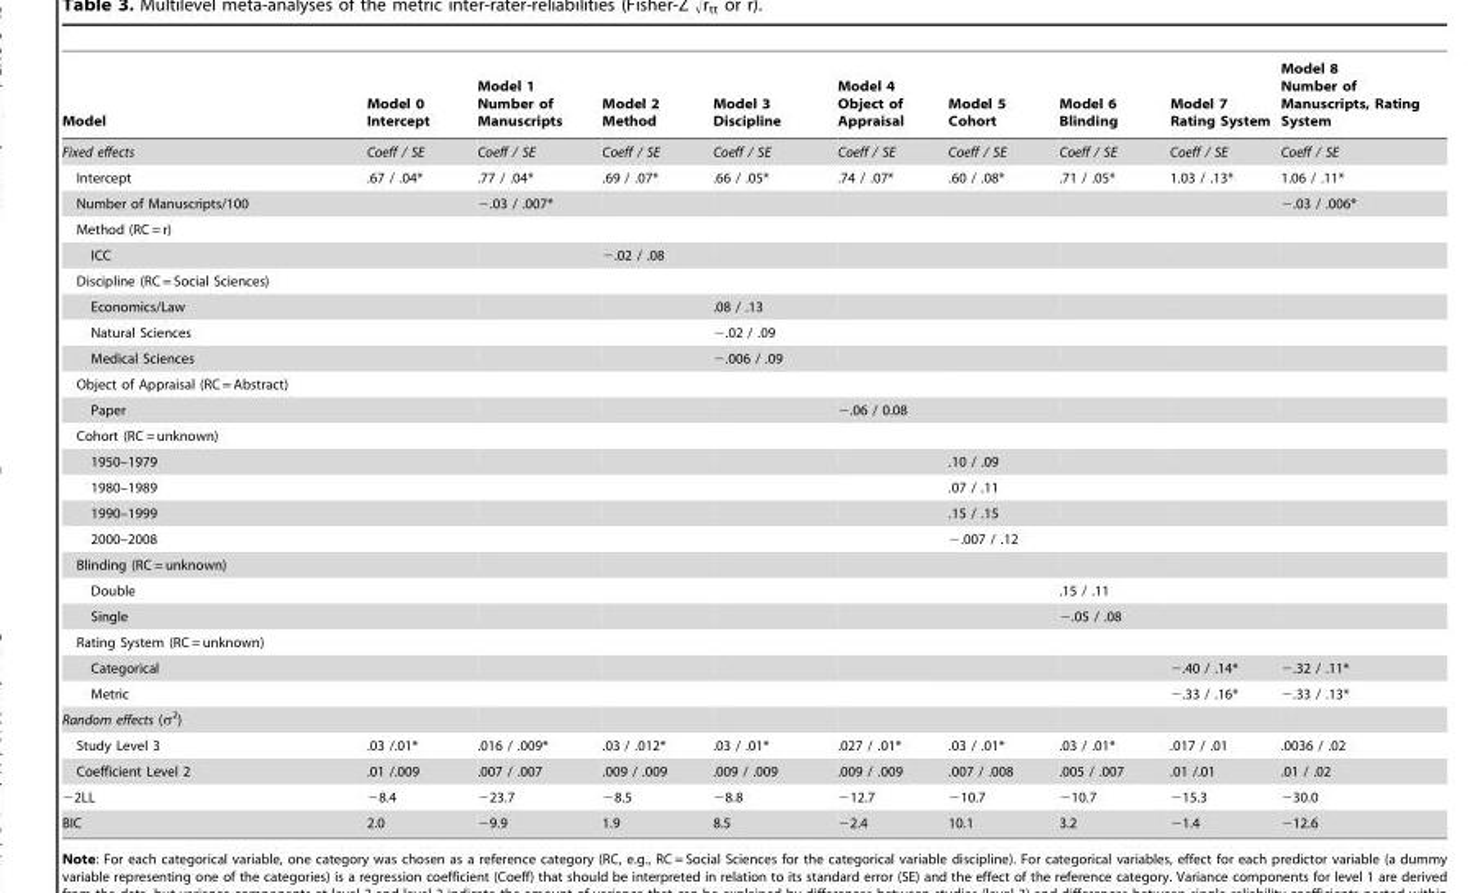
<table><thead><tr><td>Model</td><td>Model 0 Intercept</td><td>Model 1 Number of Manuscripts</td><td>Model 2 Method</td><td>Model 3 Discipline</td><td>Model 4 Object of Appraisal</td><td>Model 5 Cohort</td><td>Model 6 Blinding</td><td>Model 7 Rating System</td><td>Model 8 Number of Manuscripts, Rating System</td></tr></thead><tbody><tr><td>Fixed effects</td><td>Coeff / SE</td><td>Coeff / SE</td><td>Coeff / SE</td><td>Coeff / SE</td><td>Coeff / SE</td><td>Coeff / SE</td><td>Coeff / SE</td><td>Coeff / SE</td><td>Coeff / SE</td></tr><tr><td>Intercept</td><td>.67 / .04*</td><td>.77 / .04*</td><td>.69 / .07*</td><td>.66 / .05*</td><td>.74 / .07*</td><td>.60 / .08*</td><td>.71 / .05*</td><td>1.03 / .13*</td><td>1.06 / .11*</td></tr><tr><td>Number of Manuscripts/100</td><td></td><td>−.03 / .007*</td><td></td><td></td><td></td><td></td><td></td><td></td><td>−.03 / .006*</td></tr><tr><td colspan="10">Method (RC = r)</td></tr><tr><td>ICC</td><td></td><td></td><td>−.02 / .08</td><td></td><td></td><td></td><td></td><td></td><td></td></tr><tr><td colspan="10">Discipline (RC = Social Sciences)</td></tr><tr><td>Economics/Law</td><td></td><td></td><td></td><td>.08 / .13</td><td></td><td></td><td></td><td></td><td></td></tr><tr><td>Natural Sciences</td><td></td><td></td><td></td><td>−.02 / .09</td><td></td><td></td><td></td><td></td><td></td></tr><tr><td>Medical Sciences</td><td></td><td></td><td></td><td>−.006 / .09</td><td></td><td></td><td></td><td></td><td></td></tr><tr><td colspan="10">Object of Appraisal (RC = Abstract)</td></tr><tr><td>Paper</td><td></td><td></td><td></td><td></td><td>−.06 / 0.08</td><td></td><td></td><td></td><td></td></tr><tr><td colspan="10">Cohort (RC = unknown)</td></tr><tr><td>1950–1979</td><td></td><td></td><td></td><td></td><td></td><td>.10 / .09</td><td></td><td></td><td></td></tr><tr><td>1980–1989</td><td></td><td></td><td></td><td></td><td></td><td>.07 / .11</td><td></td><td></td><td></td></tr><tr><td>1990–1999</td><td></td><td></td><td></td><td></td><td></td><td>.15 / .15</td><td></td><td></td><td></td></tr><tr><td>2000–2008</td><td></td><td></td><td></td><td></td><td></td><td>−.007 / .12</td><td></td><td></td><td></td></tr><tr><td colspan="10">Blinding (RC = unknown)</td></tr><tr><td>Double</td><td></td><td></td><td></td><td></td><td></td><td></td><td>.15 / .11</td><td></td><td></td></tr><tr><td>Single</td><td></td><td></td><td></td><td></td><td></td><td></td><td>−.05 / .08</td><td></td><td></td></tr><tr><td colspan="10">Rating System (RC = unknown)</td></tr><tr><td>Categorical</td><td></td><td></td><td></td><td></td><td></td><td></td><td></td><td>−.40 / .14*</td><td>−.32 / .11*</td></tr><tr><td>Metric</td><td></td><td></td><td></td><td></td><td></td><td></td><td></td><td>−.33 / .16*</td><td>−.33 / .13*</td></tr><tr><td colspan="10">Random effects (σ<sup>2</sup>)</td></tr><tr><td>Study Level 3</td><td>.03 /.01*</td><td>.016 / .009*</td><td>.03 / .012*</td><td>.03 / .01*</td><td>.027 / .01*</td><td>.03 / .01*</td><td>.03 / .01*</td><td>.017 / .01</td><td>.0036 / .02</td></tr><tr><td>Coefficient Level 2</td><td>.01 /.009</td><td>.007 / .007</td><td>.009 / .009</td><td>.009 / .009</td><td>.009 / .009</td><td>.007 / .008</td><td>.005 / .007</td><td>.01 /.01</td><td>.01 / .02</td></tr><tr><td>−2LL</td><td>−8.4</td><td>−23.7</td><td>−8.5</td><td>−8.8</td><td>−12.7</td><td>−10.7</td><td>−10.7</td><td>−15.3</td><td>−30.0</td></tr><tr><td>BIC</td><td>2.0</td><td>−9.9</td><td>1.9</td><td>8.5</td><td>−2.4</td><td>10.1</td><td>3.2</td><td>−1.4</td><td>−12.6</td></tr></tbody></table>